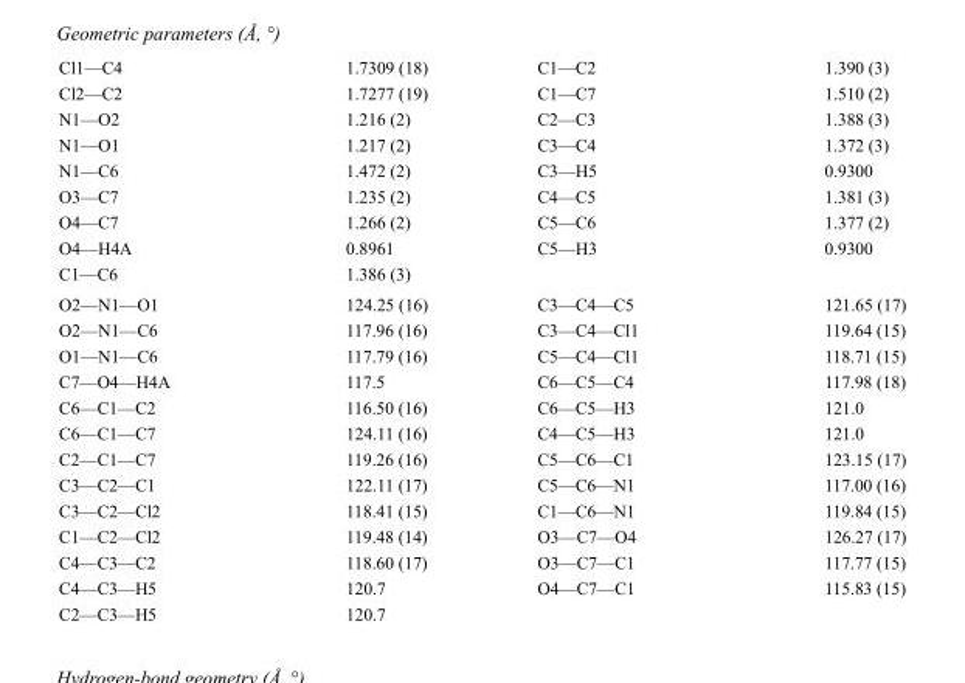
<table><tbody><tr><td>Cl1—C4</td><td>1.7309 (18)</td><td>C1—C2</td><td>1.390 (3)</td></tr><tr><td>Cl2—C2</td><td>1.7277 (19)</td><td>C1—C7</td><td>1.510 (2)</td></tr><tr><td>N1—O2</td><td>1.216 (2)</td><td>C2—C3</td><td>1.388 (3)</td></tr><tr><td>N1—O1</td><td>1.217 (2)</td><td>C3—C4</td><td>1.372 (3)</td></tr><tr><td>N1—C6</td><td>1.472 (2)</td><td>C3—H5</td><td>0.9300</td></tr><tr><td>O3—C7</td><td>1.235 (2)</td><td>C4—C5</td><td>1.381 (3)</td></tr><tr><td>O4—C7</td><td>1.266 (2)</td><td>C5—C6</td><td>1.377 (2)</td></tr><tr><td>O4—H4A</td><td>0.8961</td><td>C5—H3</td><td>0.9300</td></tr><tr><td>C1—C6</td><td>1.386 (3)</td><td></td><td></td></tr><tr><td>O2—N1—O1</td><td>124.25 (16)</td><td>C3—C4—C5</td><td>121.65 (17)</td></tr><tr><td>O2—N1—C6</td><td>117.96 (16)</td><td>C3—C4—Cl1</td><td>119.64 (15)</td></tr><tr><td>O1—N1—C6</td><td>117.79 (16)</td><td>C5—C4—Cl1</td><td>118.71 (15)</td></tr><tr><td>C7—O4—H4A</td><td>117.5</td><td>C6—C5—C4</td><td>117.98 (18)</td></tr><tr><td>C6—C1—C2</td><td>116.50 (16)</td><td>C6—C5—H3</td><td>121.0</td></tr><tr><td>C6—C1—C7</td><td>124.11 (16)</td><td>C4—C5—H3</td><td>121.0</td></tr><tr><td>C2—C1—C7</td><td>119.26 (16)</td><td>C5—C6—C1</td><td>123.15 (17)</td></tr><tr><td>C3—C2—C1</td><td>122.11 (17)</td><td>C5—C6—N1</td><td>117.00 (16)</td></tr><tr><td>C3—C2—Cl2</td><td>118.41 (15)</td><td>C1—C6—N1</td><td>119.84 (15)</td></tr><tr><td>C1—C2—Cl2</td><td>119.48 (14)</td><td>O3—C7—O4</td><td>126.27 (17)</td></tr><tr><td>C4—C3—C2</td><td>118.60 (17)</td><td>O3—C7—C1</td><td>117.77 (15)</td></tr><tr><td>C4—C3—H5</td><td>120.7</td><td>O4—C7—C1</td><td>115.83 (15)</td></tr><tr><td>C2—C3—H5</td><td>120.7</td><td></td><td></td></tr></tbody></table>